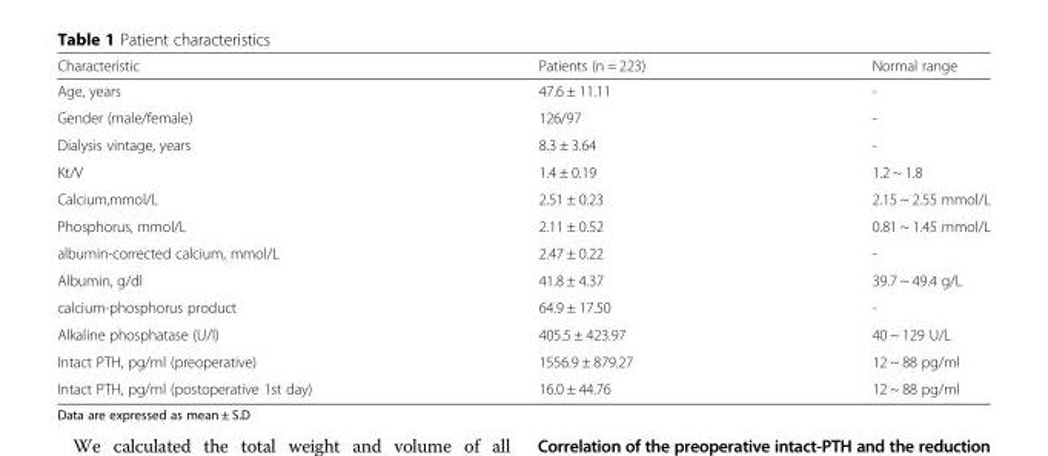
<table><thead><tr><td>Characteristic</td><td>Patients (n = 223)</td><td>Normal range</td></tr></thead><tbody><tr><td>Age, years</td><td>47.6 ± 11.11</td><td>-</td></tr><tr><td>Gender (male/female)</td><td>126/97</td><td>-</td></tr><tr><td>Dialysis vintage, years</td><td>8.3 ± 3.64</td><td>-</td></tr><tr><td>Kt/V</td><td>1.4 ± 0.19</td><td>1.2 ~ 1.8</td></tr><tr><td>Calcium,mmol/L</td><td>2.51 ± 0.23</td><td>2.15 ~ 2.55 mmol/L</td></tr><tr><td>Phosphorus, mmol/L</td><td>2.11 ± 0.52</td><td>0.81 ~ 1.45 mmol/L</td></tr><tr><td>albumin-corrected calcium, mmol/L</td><td>2.47 ± 0.22</td><td>-</td></tr><tr><td>Albumin, g/dl</td><td>41.8 ± 4.37</td><td>39.7 ~ 49.4 g/L</td></tr><tr><td>calcium-phosphorus product</td><td>64.9 ± 17.50</td><td>-</td></tr><tr><td>Alkaline phosphatase (U/l)</td><td>405.5 ± 423.97</td><td>40 ~ 129 U/L</td></tr><tr><td>Intact PTH, pg/ml (preoperative)</td><td>1556.9 ± 879.27</td><td>12 ~ 88 pg/ml</td></tr><tr><td>Intact PTH, pg/ml (postoperative 1st day)</td><td>16.0 ± 44.76</td><td>12 ~ 88 pg/ml</td></tr></tbody></table>